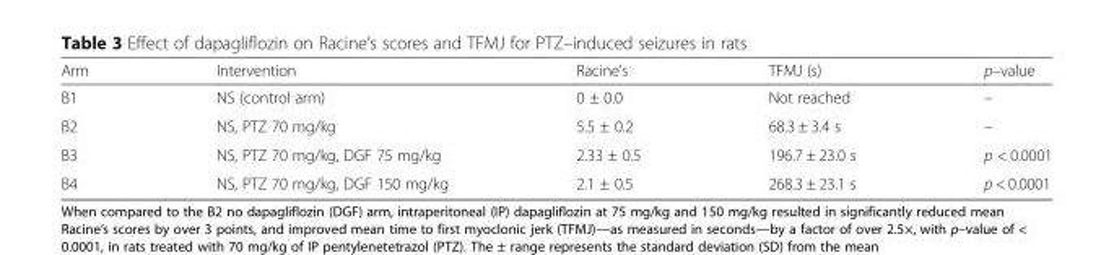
<table><thead><tr><td>Arm</td><td>Intervention</td><td>Racine’s</td><td>TFMJ (s)</td><td>p–value</td></tr></thead><tbody><tr><td>B1</td><td>NS (control arm)</td><td>0 ± 0.0</td><td>Not reached</td><td>–</td></tr><tr><td>B2</td><td>NS, PTZ 70 mg/kg</td><td>5.5 ± 0.2</td><td>68.3 ± 3.4 s</td><td>–</td></tr><tr><td>B3</td><td>NS, PTZ 70 mg/kg, DGF 75 mg/kg</td><td>2.33 ± 0.5</td><td>196.7 ± 23.0 s</td><td>p &lt; 0.0001</td></tr><tr><td>B4</td><td>NS, PTZ 70 mg/kg, DGF 150 mg/kg</td><td>2.1 ± 0.5</td><td>268.3 ± 23.1 s</td><td>p &lt; 0.0001</td></tr></tbody></table>